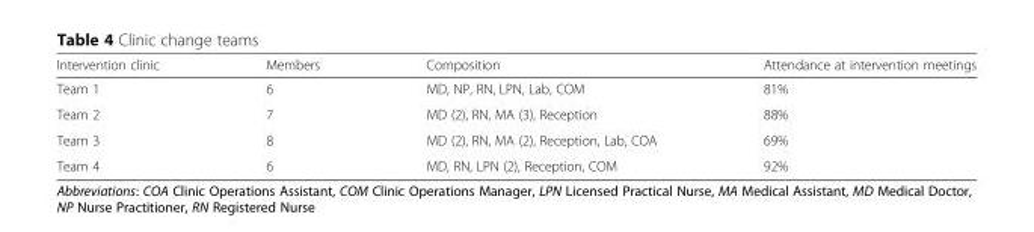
<table><thead><tr><td>Intervention clinic</td><td>Members</td><td>Composition</td><td>Attendance at intervention meetings</td></tr></thead><tbody><tr><td>Team 1</td><td>6</td><td>MD, NP, RN, LPN, Lab, COM</td><td>81%</td></tr><tr><td>Team 2</td><td>7</td><td>MD (2), RN, MA (3), Reception</td><td>88%</td></tr><tr><td>Team 3</td><td>8</td><td>MD (2), RN, MA (2), Reception, Lab, COA</td><td>69%</td></tr><tr><td>Team 4</td><td>6</td><td>MD, RN, LPN (2), Reception, COM</td><td>92%</td></tr></tbody></table>